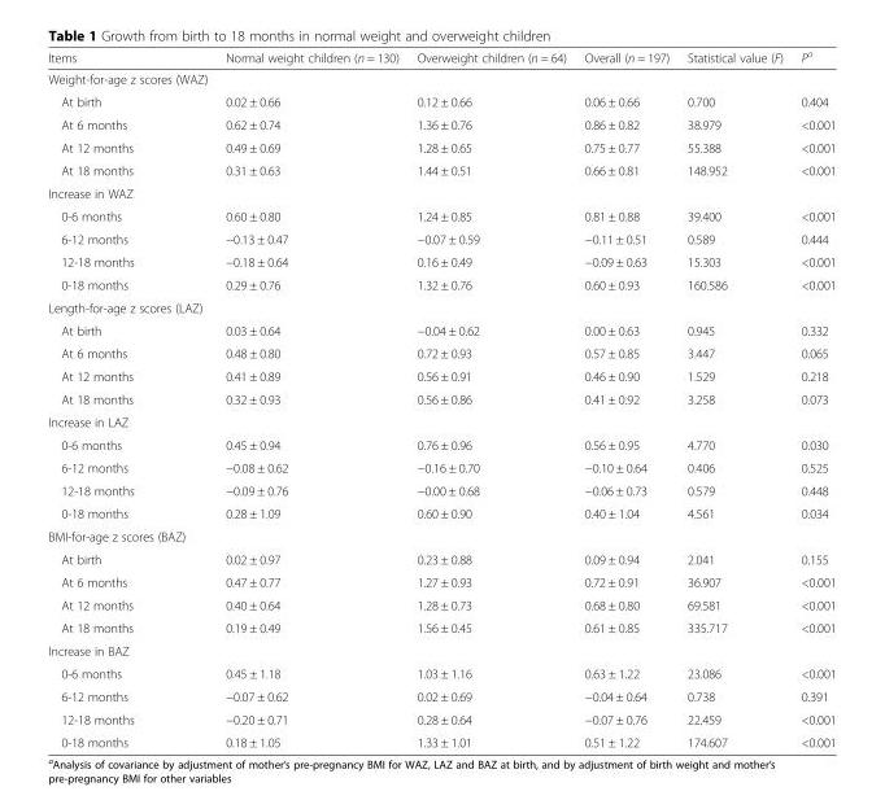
<table><thead><tr><td>Items</td><td>Normal weight children (n = 130)</td><td>Overweight children (n = 64)</td><td>Overall (n = 197)</td><td>Statistical value (F)</td><td>P<sup>a</sup></td></tr></thead><tbody><tr><td colspan="6">Weight-for-age z scores (WAZ)</td></tr><tr><td>At birth</td><td>0.02 ± 0.66</td><td>0.12 ± 0.66</td><td>0.06 ± 0.66</td><td>0.700</td><td>0.404</td></tr><tr><td>At 6 months</td><td>0.62 ± 0.74</td><td>1.36 ± 0.76</td><td>0.86 ± 0.82</td><td>38.979</td><td>&lt;0.001</td></tr><tr><td>At 12 months</td><td>0.49 ± 0.69</td><td>1.28 ± 0.65</td><td>0.75 ± 0.77</td><td>55.388</td><td>&lt;0.001</td></tr><tr><td>At 18 months</td><td>0.31 ± 0.63</td><td>1.44 ± 0.51</td><td>0.66 ± 0.81</td><td>148.952</td><td>&lt;0.001</td></tr><tr><td colspan="6">Increase in WAZ</td></tr><tr><td>0-6 months</td><td>0.60 ± 0.80</td><td>1.24 ± 0.85</td><td>0.81 ± 0.88</td><td>39.400</td><td>&lt;0.001</td></tr><tr><td>6-12 months</td><td>−0.13 ± 0.47</td><td>−0.07 ± 0.59</td><td>−0.11 ± 0.51</td><td>0.589</td><td>0.444</td></tr><tr><td>12-18 months</td><td>−0.18 ± 0.64</td><td>0.16 ± 0.49</td><td>−0.09 ± 0.63</td><td>15.303</td><td>&lt;0.001</td></tr><tr><td>0-18 months</td><td>0.29 ± 0.76</td><td>1.32 ± 0.76</td><td>0.60 ± 0.93</td><td>160.586</td><td>&lt;0.001</td></tr><tr><td colspan="6">Length-for-age z scores (LAZ)</td></tr><tr><td>At birth</td><td>0.03 ± 0.64</td><td>−0.04 ± 0.62</td><td>0.00 ± 0.63</td><td>0.945</td><td>0.332</td></tr><tr><td>At 6 months</td><td>0.48 ± 0.80</td><td>0.72 ± 0.93</td><td>0.57 ± 0.85</td><td>3.447</td><td>0.065</td></tr><tr><td>At 12 months</td><td>0.41 ± 0.89</td><td>0.56 ± 0.91</td><td>0.46 ± 0.90</td><td>1.529</td><td>0.218</td></tr><tr><td>At 18 months</td><td>0.32 ± 0.93</td><td>0.56 ± 0.86</td><td>0.41 ± 0.92</td><td>3.258</td><td>0.073</td></tr><tr><td colspan="6">Increase in LAZ</td></tr><tr><td>0-6 months</td><td>0.45 ± 0.94</td><td>0.76 ± 0.96</td><td>0.56 ± 0.95</td><td>4.770</td><td>0.030</td></tr><tr><td>6-12 months</td><td>−0.08 ± 0.62</td><td>−0.16 ± 0.70</td><td>−0.10 ± 0.64</td><td>0.406</td><td>0.525</td></tr><tr><td>12-18 months</td><td>−0.09 ± 0.76</td><td>−0.00 ± 0.68</td><td>−0.06 ± 0.73</td><td>0.579</td><td>0.448</td></tr><tr><td>0-18 months</td><td>0.28 ± 1.09</td><td>0.60 ± 0.90</td><td>0.40 ± 1.04</td><td>4.561</td><td>0.034</td></tr><tr><td colspan="6">BMI-for-age z scores (BAZ)</td></tr><tr><td>At birth</td><td>0.02 ± 0.97</td><td>0.23 ± 0.88</td><td>0.09 ± 0.94</td><td>2.041</td><td>0.155</td></tr><tr><td>At 6 months</td><td>0.47 ± 0.77</td><td>1.27 ± 0.93</td><td>0.72 ± 0.91</td><td>36.907</td><td>&lt;0.001</td></tr><tr><td>At 12 months</td><td>0.40 ± 0.64</td><td>1.28 ± 0.73</td><td>0.68 ± 0.80</td><td>69.581</td><td>&lt;0.001</td></tr><tr><td>At 18 months</td><td>0.19 ± 0.49</td><td>1.56 ± 0.45</td><td>0.61 ± 0.85</td><td>335.717</td><td>&lt;0.001</td></tr><tr><td colspan="6">Increase in BAZ</td></tr><tr><td>0-6 months</td><td>0.45 ± 1.18</td><td>1.03 ± 1.16</td><td>0.63 ± 1.22</td><td>23.086</td><td>&lt;0.001</td></tr><tr><td>6-12 months</td><td>−0.07 ± 0.62</td><td>0.02 ± 0.69</td><td>−0.04 ± 0.64</td><td>0.738</td><td>0.391</td></tr><tr><td>12-18 months</td><td>−0.20 ± 0.71</td><td>0.28 ± 0.64</td><td>−0.07 ± 0.76</td><td>22.459</td><td>&lt;0.001</td></tr><tr><td>0-18 months</td><td>0.18 ± 1.05</td><td>1.33 ± 1.01</td><td>0.51 ± 1.22</td><td>174.607</td><td>&lt;0.001</td></tr></tbody></table>